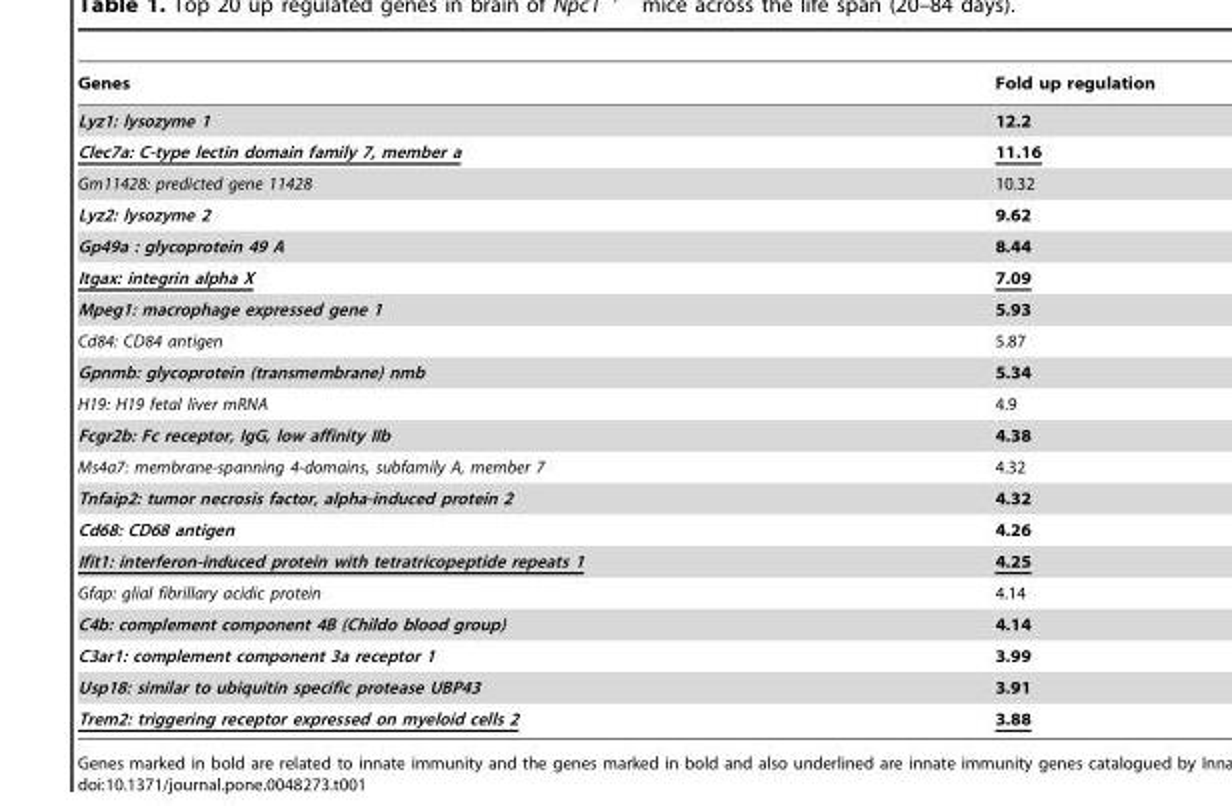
<table><thead><tr><td>Genes</td><td>Fold up regulation</td></tr></thead><tbody><tr><td>Lyz1: lysozyme 1</td><td>12.2</td></tr><tr><td>Clec7a: C-type lectin domain family 7, member a</td><td>11.16</td></tr><tr><td>Gm11428: predicted gene 11428</td><td>10.32</td></tr><tr><td>Lyz2: lysozyme 2</td><td>9.62</td></tr><tr><td>Gp49a : glycoprotein 49 A</td><td>8.44</td></tr><tr><td>Itgax: integrin alpha X</td><td>7.09</td></tr><tr><td>Mpeg1: macrophage expressed gene 1</td><td>5.93</td></tr><tr><td>Cd84: CD84 antigen</td><td>5.87</td></tr><tr><td>Gpnmb: glycoprotein (transmembrane) nmb</td><td>5.34</td></tr><tr><td>H19: H19 fetal liver mRNA</td><td>4.9</td></tr><tr><td>Fcgr2b: Fc receptor, IgG, low affinity IIb</td><td>4.38</td></tr><tr><td>Ms4a7: membrane-spanning 4-domains, subfamily A, member 7</td><td>4.32</td></tr><tr><td>Tnfaip2: tumor necrosis factor, alpha-induced protein 2</td><td>4.32</td></tr><tr><td>Cd68: CD68 antigen</td><td>4.26</td></tr><tr><td>Ifit1: interferon-induced protein with tetratricopeptide repeats 1</td><td>4.25</td></tr><tr><td>Gfap: glial fibrillary acidic protein</td><td>4.14</td></tr><tr><td>C4b: complement component 4B (Childo blood group)</td><td>4.14</td></tr><tr><td>C3ar1: complement component 3a receptor 1</td><td>3.99</td></tr><tr><td>Usp18: similar to ubiquitin specific protease UBP43</td><td>3.91</td></tr><tr><td>Trem2: triggering receptor expressed on myeloid cells 2</td><td>3.88</td></tr></tbody></table>